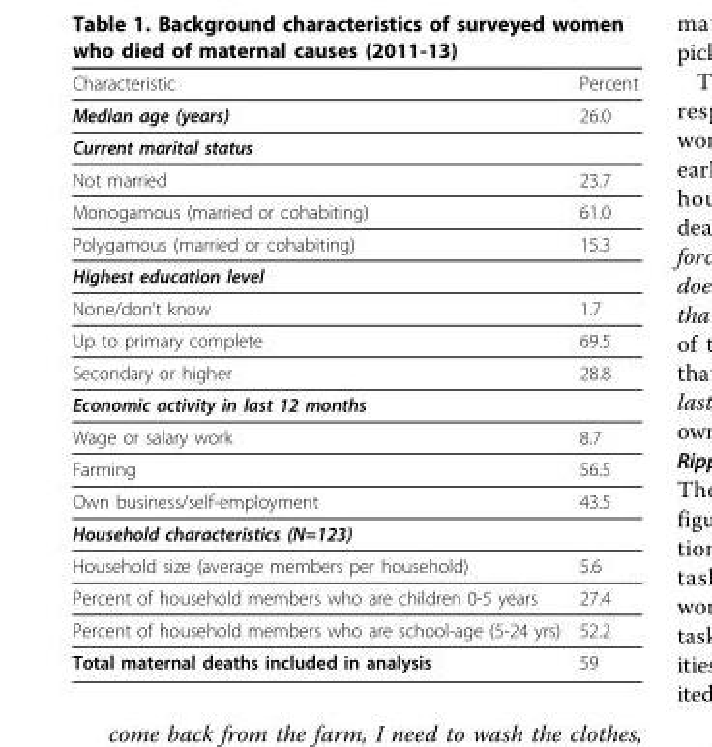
<table><thead><tr><td>Characteristic</td><td>Percent</td></tr></thead><tbody><tr><td>Median age (years)</td><td>26.0</td></tr><tr><td colspan="2">Current marital status</td></tr><tr><td>Not married</td><td>23.7</td></tr><tr><td>Monogamous (married or cohabiting)</td><td>61.0</td></tr><tr><td>Polygamous (married or cohabiting)</td><td>15.3</td></tr><tr><td colspan="2">Highest education level</td></tr><tr><td>None/don’t know</td><td>1.7</td></tr><tr><td>Up to primary complete</td><td>69.5</td></tr><tr><td>Secondary or higher</td><td>28.8</td></tr><tr><td colspan="2">Economic activity in last 12 months</td></tr><tr><td>Wage or salary work</td><td>8.7</td></tr><tr><td>Farming</td><td>56.5</td></tr><tr><td>Own business/self-employment</td><td>43.5</td></tr><tr><td colspan="2">Household characteristics (N=123)</td></tr><tr><td>Household size (average members per household)</td><td>5.6</td></tr><tr><td>Percent of household members who are children 0-5 years</td><td>27.4</td></tr><tr><td>Percent of household members who are school-age (5-24 yrs)</td><td>52.2</td></tr><tr><td>Total maternal deaths included in analysis</td><td>59</td></tr></tbody></table>